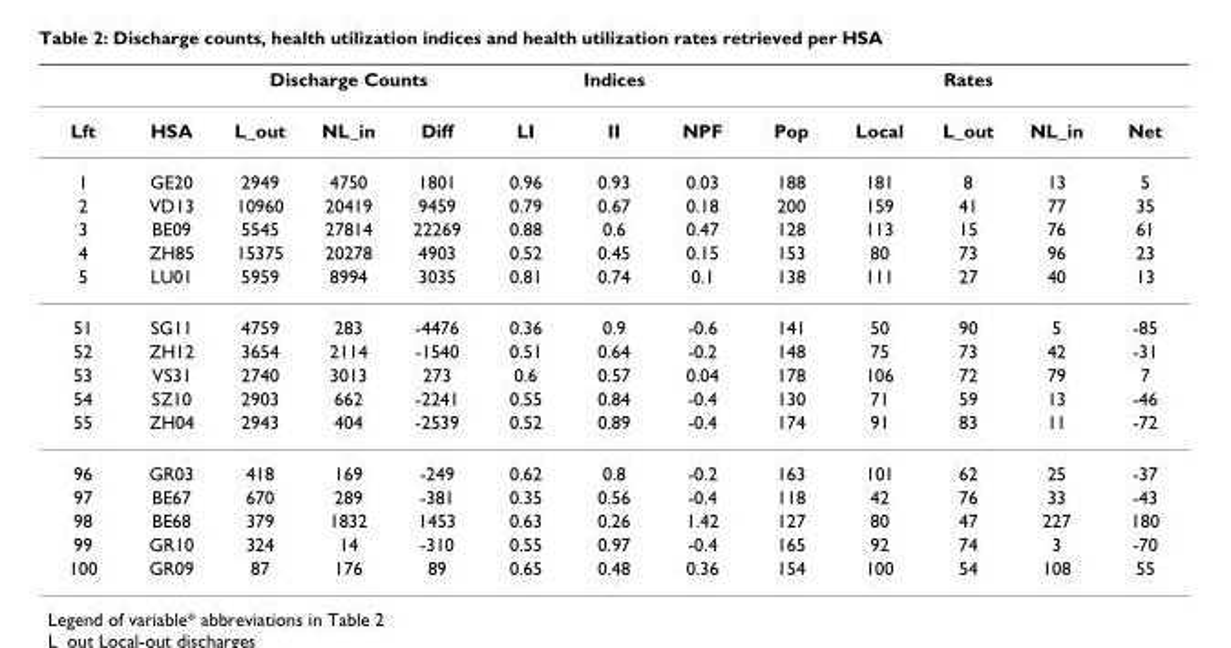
<table><thead><tr><td rowspan="2">Lft</td><td rowspan="2">HSA</td><td colspan="3">Discharge Counts</td><td colspan="3">Indices</td><td colspan="5">Rates</td></tr><tr><td>L_out</td><td>NL_in</td><td>Diff</td><td>LI</td><td>II</td><td>NPF</td><td>Pop</td><td>Local</td><td>L_out</td><td>NL_in</td><td>Net</td></tr></thead><tbody><tr><td>1</td><td>GE20</td><td>2949</td><td>4750</td><td>1801</td><td>0.96</td><td>0.93</td><td>0.03</td><td>188</td><td>181</td><td>8</td><td>13</td><td>5</td></tr><tr><td>2</td><td>VD13</td><td>10960</td><td>20419</td><td>9459</td><td>0.79</td><td>0.67</td><td>0.18</td><td>200</td><td>159</td><td>41</td><td>77</td><td>35</td></tr><tr><td>3</td><td>BE09</td><td>5545</td><td>27814</td><td>22269</td><td>0.88</td><td>0.6</td><td>0.47</td><td>128</td><td>113</td><td>15</td><td>76</td><td>61</td></tr><tr><td>4</td><td>ZH85</td><td>15375</td><td>20278</td><td>4903</td><td>0.52</td><td>0.45</td><td>0.15</td><td>153</td><td>80</td><td>73</td><td>96</td><td>23</td></tr><tr><td>5</td><td>LU01</td><td>5959</td><td>8994</td><td>3035</td><td>0.81</td><td>0.74</td><td>0.1</td><td>138</td><td>111</td><td>27</td><td>40</td><td>13</td></tr><tr><td>51</td><td>SG11</td><td>4759</td><td>283</td><td>-4476</td><td>0.36</td><td>0.9</td><td>-0.6</td><td>141</td><td>50</td><td>90</td><td>5</td><td>-85</td></tr><tr><td>52</td><td>ZH12</td><td>3654</td><td>2114</td><td>-1540</td><td>0.51</td><td>0.64</td><td>-0.2</td><td>148</td><td>75</td><td>73</td><td>42</td><td>-31</td></tr><tr><td>53</td><td>VS31</td><td>2740</td><td>3013</td><td>273</td><td>0.6</td><td>0.57</td><td>0.04</td><td>178</td><td>106</td><td>72</td><td>79</td><td>7</td></tr><tr><td>54</td><td>SZ10</td><td>2903</td><td>662</td><td>-2241</td><td>0.55</td><td>0.84</td><td>-0.4</td><td>130</td><td>71</td><td>59</td><td>13</td><td>-46</td></tr><tr><td>55</td><td>ZH04</td><td>2943</td><td>404</td><td>-2539</td><td>0.52</td><td>0.89</td><td>-0.4</td><td>174</td><td>91</td><td>83</td><td>11</td><td>-72</td></tr><tr><td>96</td><td>GR03</td><td>418</td><td>169</td><td>-249</td><td>0.62</td><td>0.8</td><td>-0.2</td><td>163</td><td>101</td><td>62</td><td>25</td><td>-37</td></tr><tr><td>97</td><td>BE67</td><td>670</td><td>289</td><td>-381</td><td>0.35</td><td>0.56</td><td>-0.4</td><td>118</td><td>42</td><td>76</td><td>33</td><td>-43</td></tr><tr><td>98</td><td>BE68</td><td>379</td><td>1832</td><td>1453</td><td>0.63</td><td>0.26</td><td>1.42</td><td>127</td><td>80</td><td>47</td><td>227</td><td>180</td></tr><tr><td>99</td><td>GR10</td><td>324</td><td>14</td><td>-310</td><td>0.55</td><td>0.97</td><td>-0.4</td><td>165</td><td>92</td><td>74</td><td>3</td><td>-70</td></tr><tr><td>100</td><td>GR09</td><td>87</td><td>176</td><td>89</td><td>0.65</td><td>0.48</td><td>0.36</td><td>154</td><td>100</td><td>54</td><td>108</td><td>55</td></tr></tbody></table>